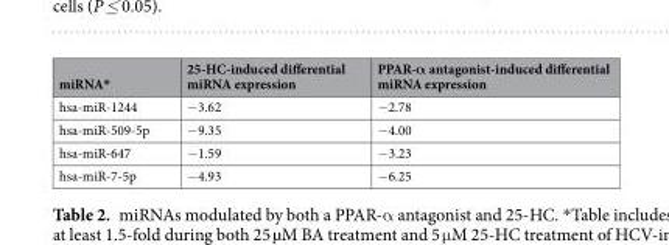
<table><thead><tr><td>miRNA*</td><td>25-HC-induced differential miRNA expression</td><td>PPAR-α antagonist-induced differential miRNA expression</td></tr></thead><tbody><tr><td>hsa-miR-1244</td><td>−3.62</td><td>−2.78</td></tr><tr><td>hsa-miR-509-5p</td><td>−9.35</td><td>−4.00</td></tr><tr><td>hsa-miR-647</td><td>−1.59</td><td>−3.23</td></tr><tr><td>hsa-miR-7-5p</td><td>−4.93</td><td>−6.25</td></tr></tbody></table>